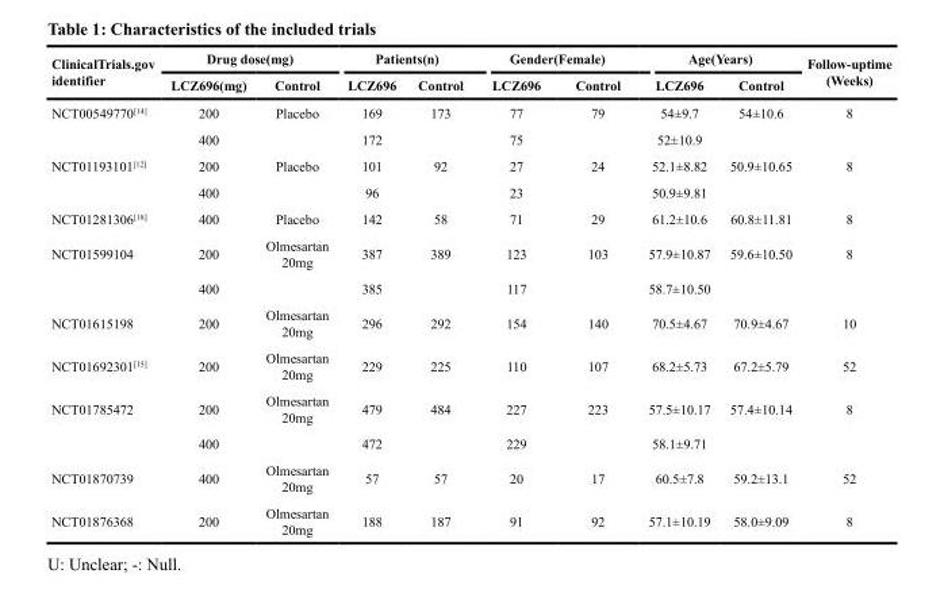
<table><thead><tr><td rowspan="2">ClinicalTrials.gov identifier</td><td colspan="2">Drug dose(mg)</td><td colspan="2">Patients(n)</td><td colspan="2">Gender(Female)</td><td colspan="2">Age(Years)</td><td rowspan="2">Follow-uptime (Weeks)</td></tr><tr><td>LCZ696(mg)</td><td>Control</td><td>LCZ696</td><td>Control</td><td>LCZ696</td><td>Control</td><td>LCZ696</td><td>Control</td></tr></thead><tbody><tr><td rowspan="2">NCT00549770[14]</td><td>200</td><td>Placebo</td><td>169</td><td>173</td><td>77</td><td>79</td><td>54±9.7</td><td>54±10.6</td><td>8</td></tr><tr><td>400</td><td></td><td>172</td><td></td><td>75</td><td></td><td>52±10.9</td><td></td><td></td></tr><tr><td rowspan="2">NCT01193101[12]</td><td>200</td><td>Placebo</td><td>101</td><td>92</td><td>27</td><td>24</td><td>52.1±8.82</td><td>50.9±10.65</td><td>8</td></tr><tr><td>400</td><td></td><td>96</td><td></td><td>23</td><td></td><td>50.9±9.81</td><td></td><td></td></tr><tr><td>NCT01281306[18]</td><td>400</td><td>Placebo</td><td>142</td><td>58</td><td>71</td><td>29</td><td>61.2±10.6</td><td>60.8±11.81</td><td>8</td></tr><tr><td rowspan="2">NCT01599104</td><td>200</td><td>Olmesartan 20mg</td><td>387</td><td>389</td><td>123</td><td>103</td><td>57.9±10.87</td><td>59.6±10.50</td><td>8</td></tr><tr><td>400</td><td></td><td>385</td><td></td><td>117</td><td></td><td>58.7±10.50</td><td></td><td></td></tr><tr><td>NCT01615198</td><td>200</td><td>Olmesartan 20mg</td><td>296</td><td>292</td><td>154</td><td>140</td><td>70.5±4.67</td><td>70.9±4.67</td><td>10</td></tr><tr><td>NCT01692301[15]</td><td>200</td><td>Olmesartan 20mg</td><td>229</td><td>225</td><td>110</td><td>107</td><td>68.2±5.73</td><td>67.2±5.79</td><td>52</td></tr><tr><td rowspan="2">NCT01785472</td><td>200</td><td>Olmesartan 20mg</td><td>479</td><td>484</td><td>227</td><td>223</td><td>57.5±10.17</td><td>57.4±10.14</td><td>8</td></tr><tr><td>400</td><td></td><td>472</td><td></td><td>229</td><td></td><td>58.1±9.71</td><td></td><td></td></tr><tr><td>NCT01870739</td><td>400</td><td>Olmesartan 20mg</td><td>57</td><td>57</td><td>20</td><td>17</td><td>60.5±7.8</td><td>59.2±13.1</td><td>52</td></tr><tr><td>NCT01876368</td><td>200</td><td>Olmesartan 20mg</td><td>188</td><td>187</td><td>91</td><td>92</td><td>57.1±10.19</td><td>58.0±9.09</td><td>8</td></tr></tbody></table>